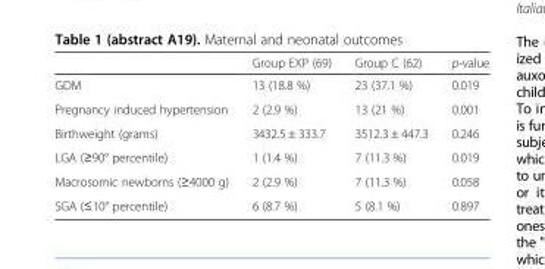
<table><thead><tr><td></td><td>Group EXP (69)</td><td>Group C (62)</td><td>p-value</td></tr></thead><tbody><tr><td>GDM</td><td>13 (18.8 %)</td><td>23 (37.1 %)</td><td>0.019</td></tr><tr><td>Pregnancy induced hypertension</td><td>2 (2.9 %)</td><td>13 (21 %)</td><td>0.001</td></tr><tr><td>Birthweight (grams)</td><td>3432.5 ± 333.7</td><td>3512.3 ± 447.3</td><td>0.246</td></tr><tr><td>LGA (≥90° percentile)</td><td>1 (1.4 %)</td><td>7 (11.3 %)</td><td>0.019</td></tr><tr><td>Macrosomic newborns (≥4000 g)</td><td>2 (2.9 %)</td><td>7 (11.3 %)</td><td>0.058</td></tr><tr><td>SGA (≤10° percentile)</td><td>6 (8.7 %)</td><td>5 (8.1 %)</td><td>0.897</td></tr></tbody></table>